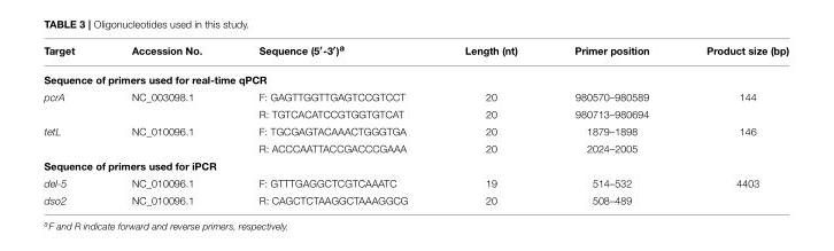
<table><thead><tr><td>Target</td><td>Accession No.</td><td>Sequence (5′-3′)<sup>a</sup></td><td>Length (nt)</td><td>Primer position</td><td>Product size (bp)</td></tr></thead><tbody><tr><td colspan="6">Sequence of primers used for real-time qPCR</td></tr><tr><td rowspan="2">pcrA</td><td>NC_003098.1</td><td>F: GAGTTGGTTGAGTCCGTCCT</td><td>20</td><td>980570–980589</td><td>144</td></tr><tr><td></td><td>R: TGTCACATCCGTGGTGTCAT</td><td>20</td><td>980713–980694</td><td></td></tr><tr><td rowspan="2">tetL</td><td>NC_010096.1</td><td>F: TGCGAGTACAAACTGGGTGA</td><td>20</td><td>1879–1898</td><td>146</td></tr><tr><td></td><td>R: ACCCAATTACCGACCCGAAA</td><td>20</td><td>2024–2005</td><td></td></tr><tr><td colspan="6">Sequence of primers used for iPCR</td></tr><tr><td>del-5</td><td>NC_010096.1</td><td>F: GTTTGAGGCTCGTCAAATC</td><td>19</td><td>514–532</td><td>4403</td></tr><tr><td>dso2</td><td>NC_010096.1</td><td>R: CAGCTCTAAGGCTAAAGGCG</td><td>20</td><td>508–489</td><td></td></tr></tbody></table>